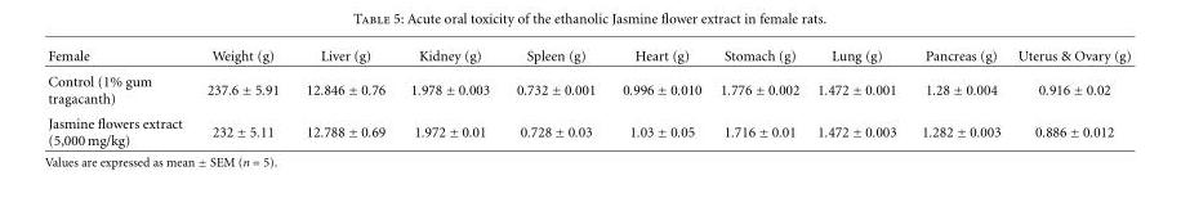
<table><thead><tr><td>Female</td><td>Weight (g)</td><td>Liver (g)</td><td>Kidney (g)</td><td>Spleen (g)</td><td>Heart (g)</td><td>Stomach (g)</td><td>Lung (g)</td><td>Pancreas (g)</td><td>Uterus &amp; Ovary (g)</td></tr></thead><tbody><tr><td>Control (1% gum tragacanth)</td><td>237.6 ± 5.91</td><td>12.846 ± 0.76</td><td>1.978 ± 0.003</td><td>0.732 ± 0.001</td><td>0.996 ± 0.010</td><td>1.776 ± 0.002</td><td>1.472 ± 0.001</td><td>1.28 ± 0.004</td><td>0.916 ± 0.02</td></tr><tr><td>Jasmine flowers extract (5,000 mg/kg)</td><td>232 ± 5.11</td><td>12.788 ± 0.69</td><td>1.972 ± 0.01</td><td>0.728 ± 0.03</td><td>1.03 ± 0.05</td><td>1.716 ± 0.01</td><td>1.472 ± 0.003</td><td>1.282 ± 0.003</td><td>0.886 ± 0.012</td></tr></tbody></table>